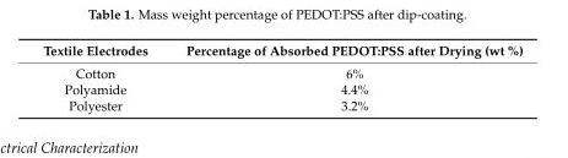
<table><thead><tr><td>Textile Electrodes</td><td>Percentage of Absorbed PEDOT:PSS after Drying (wt %)</td></tr></thead><tbody><tr><td>Cotton</td><td>6%</td></tr><tr><td>Polyamide</td><td>4.4%</td></tr><tr><td>Polyester</td><td>3.2%</td></tr></tbody></table>